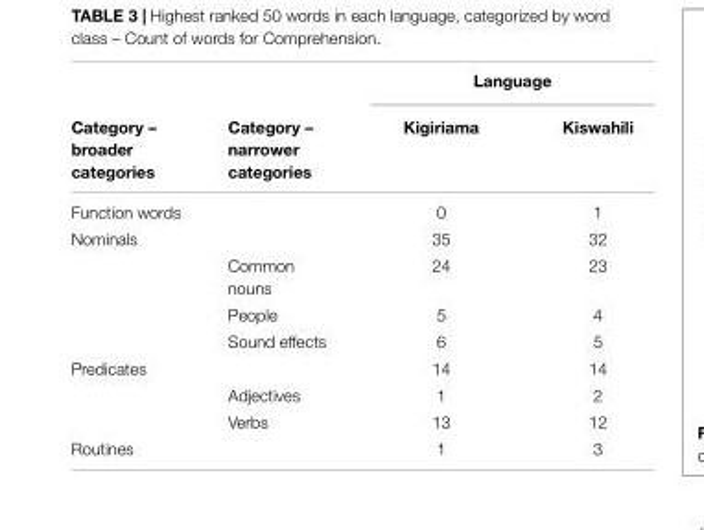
<table><thead><tr><td rowspan="2">Category – broader categories</td><td rowspan="2">Category – narrower categories</td><td colspan="2">Language</td></tr><tr><td>Kigiriama</td><td>Kiswahili</td></tr></thead><tbody><tr><td>Function words</td><td></td><td>0</td><td>1</td></tr><tr><td rowspan="4">Nominals</td><td></td><td>35</td><td>32</td></tr><tr><td>Common nouns</td><td>24</td><td>23</td></tr><tr><td>People</td><td>5</td><td>4</td></tr><tr><td>Sound effects</td><td>6</td><td>5</td></tr><tr><td rowspan="3">Predicates</td><td></td><td>14</td><td>14</td></tr><tr><td>Adjectives</td><td>1</td><td>2</td></tr><tr><td>Verbs</td><td>13</td><td>12</td></tr><tr><td>Routines</td><td></td><td>1</td><td>3</td></tr></tbody></table>